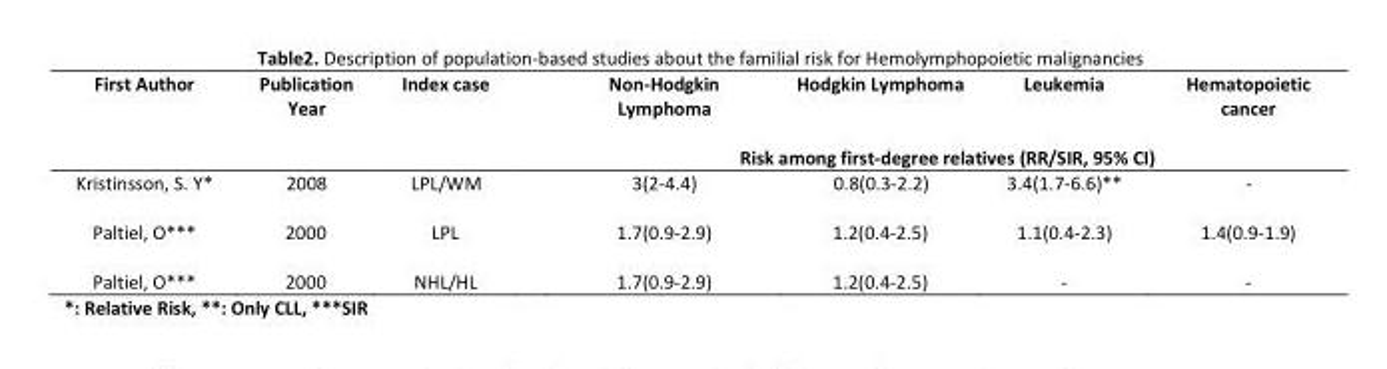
<table><thead><tr><td rowspan="2">First Author</td><td rowspan="2">Publication Year</td><td rowspan="2">Index case</td><td>Non-Hodgkin Lymphoma</td><td>Hodgkin Lymphoma</td><td>Leukemia</td><td>Hematopoietic cancer</td></tr><tr><td colspan="4">Risk among first-degree relatives (RR/SIR, 95% CI)</td></tr></thead><tbody><tr><td>Kristinsson, S. Y*</td><td>2008</td><td>LPL/WM</td><td>3(2-4.4)</td><td>0.8(0.3-2.2)</td><td>3.4(1.7-6.6)**</td><td>-</td></tr><tr><td>Paltiel, O***</td><td>2000</td><td>LPL</td><td>1.7(0.9-2.9)</td><td>1.2(0.4-2.5)</td><td>1.1(0.4-2.3)</td><td>1.4(0.9-1.9)</td></tr><tr><td>Paltiel, O***</td><td>2000</td><td>NHL/HL</td><td>1.7(0.9-2.9)</td><td>1.2(0.4-2.5)</td><td>-</td><td>-</td></tr></tbody></table>